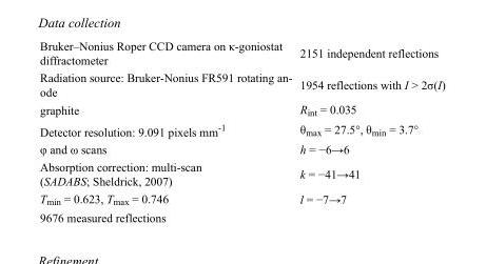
<table><tbody><tr><td>Bruker–Nonius Roper CCD camera on κ-goniostat diffractometer</td><td>2151 independent reflections</td></tr><tr><td>Radiation source: Bruker-Nonius FR591 rotating an- ode</td><td>1954 reflections with I &gt; 2σ(I)</td></tr><tr><td>graphite</td><td>R<sub>int</sub> = 0.035</td></tr><tr><td>Detector resolution: 9.091 pixels mm<sup>-1</sup></td><td>θ<sub>max</sub> = 27.5°, θ<sub>min</sub> = 3.7°</td></tr><tr><td>φ and ω scans</td><td>h = −6→6</td></tr><tr><td>Absorption correction: multi-scan (SADABS; Sheldrick, 2007)</td><td>k = −41→41</td></tr><tr><td>T<sub>min</sub> = 0.623, T<sub>max</sub> = 0.746</td><td>l = −7→7</td></tr><tr><td>9676 measured reflections</td><td></td></tr></tbody></table>